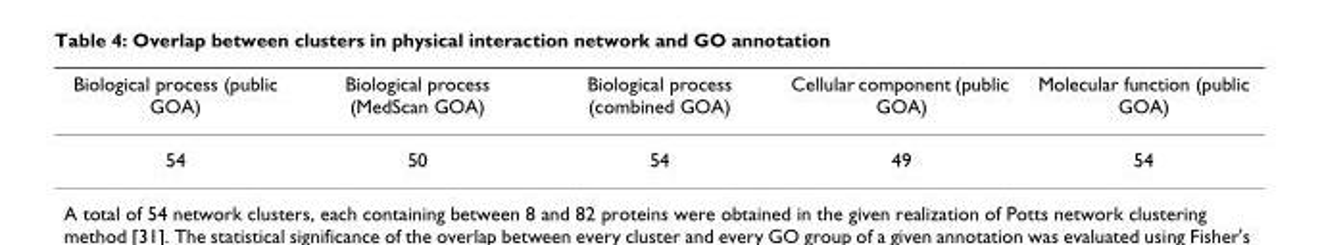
<table><thead><tr><td>Biological process (public GOA)</td><td>Biological process (MedScan GOA)</td><td>Biological process (combined GOA)</td><td>Cellular component (public GOA)</td><td>Molecular function (public GOA)</td></tr></thead><tbody><tr><td>54</td><td>50</td><td>54</td><td>49</td><td>54</td></tr></tbody></table>